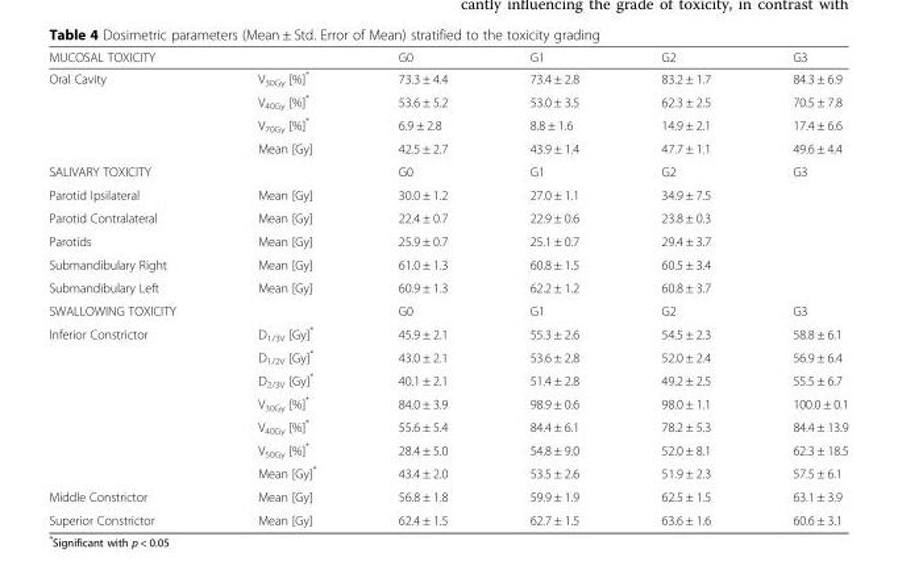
<table><thead><tr><td>MUCOSAL TOXICITY</td><td></td><td>G0</td><td>G1</td><td>G2</td><td>G3</td></tr></thead><tbody><tr><td rowspan="4">Oral Cavity</td><td>V<sub>30Gy</sub> [%]*</td><td>73.3 ± 4.4</td><td>73.4 ± 2.8</td><td>83.2 ± 1.7</td><td>84.3 ± 6.9</td></tr><tr><td>V<sub>40Gy</sub> [%]*</td><td>53.6 ± 5.2</td><td>53.0 ± 3.5</td><td>62.3 ± 2.5</td><td>70.5 ± 7.8</td></tr><tr><td>V<sub>70Gy</sub> [%]*</td><td>6.9 ± 2.8</td><td>8.8 ± 1.6</td><td>14.9 ± 2.1</td><td>17.4 ± 6.6</td></tr><tr><td>Mean [Gy]</td><td>42.5 ± 2.7</td><td>43.9 ± 1.4</td><td>47.7 ± 1.1</td><td>49.6 ± 4.4</td></tr><tr><td>SALIVARY TOXICITY</td><td></td><td>G0</td><td>G1</td><td>G2</td><td>G3</td></tr><tr><td>Parotid Ipsilateral</td><td>Mean [Gy]</td><td>30.0 ± 1.2</td><td>27.0 ± 1.1</td><td>34.9 ± 7.5</td><td></td></tr><tr><td>Parotid Contralateral</td><td>Mean [Gy]</td><td>22.4 ± 0.7</td><td>22.9 ± 0.6</td><td>23.8 ± 0.3</td><td></td></tr><tr><td>Parotids</td><td>Mean [Gy]</td><td>25.9 ± 0.7</td><td>25.1 ± 0.7</td><td>29.4 ± 3.7</td><td></td></tr><tr><td>Submandibulary Right</td><td>Mean [Gy]</td><td>61.0 ± 1.3</td><td>60.8 ± 1.5</td><td>60.5 ± 3.4</td><td></td></tr><tr><td>Submandibulary Left</td><td>Mean [Gy]</td><td>60.9 ± 1.3</td><td>62.2 ± 1.2</td><td>60.8 ± 3.7</td><td></td></tr><tr><td>SWALLOWING TOXICITY</td><td></td><td>G0</td><td>G1</td><td>G2</td><td>G3</td></tr><tr><td rowspan="7">Inferior Constrictor</td><td>D<sub>1/3V</sub> [Gy]*</td><td>45.9 ± 2.1</td><td>55.3 ± 2.6</td><td>54.5 ± 2.3</td><td>58.8 ± 6.1</td></tr><tr><td>D<sub>1/2V</sub> [Gy]*</td><td>43.0 ± 2.1</td><td>53.6 ± 2.8</td><td>52.0 ± 2.4</td><td>56.9 ± 6.4</td></tr><tr><td>D<sub>2/3V</sub> [Gy]*</td><td>40.1 ± 2.1</td><td>51.4 ± 2.8</td><td>49.2 ± 2.5</td><td>55.5 ± 6.7</td></tr><tr><td>V<sub>30Gy</sub> [%]*</td><td>84.0 ± 3.9</td><td>98.9 ± 0.6</td><td>98.0 ± 1.1</td><td>100.0 ± 0.1</td></tr><tr><td>V<sub>40Gy</sub> [%]*</td><td>55.6 ± 5.4</td><td>84.4 ± 6.1</td><td>78.2 ± 5.3</td><td>84.4 ± 13.9</td></tr><tr><td>V<sub>50Gy</sub> [%]*</td><td>28.4 ± 5.0</td><td>54.8 ± 9.0</td><td>52.0 ± 8.1</td><td>62.3 ± 18.5</td></tr><tr><td>Mean [Gy]*</td><td>43.4 ± 2.0</td><td>53.5 ± 2.6</td><td>51.9 ± 2.3</td><td>57.5 ± 6.1</td></tr><tr><td>Middle Constrictor</td><td>Mean [Gy]</td><td>56.8 ± 1.8</td><td>59.9 ± 1.9</td><td>62.5 ± 1.5</td><td>63.1 ± 3.9</td></tr><tr><td>Superior Constrictor</td><td>Mean [Gy]</td><td>62.4 ± 1.5</td><td>62.7 ± 1.5</td><td>63.6 ± 1.6</td><td>60.6 ± 3.1</td></tr></tbody></table>